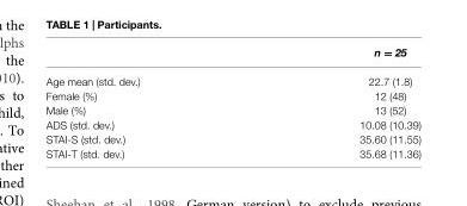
<table><thead><tr><td></td><td>n = 25</td></tr></thead><tbody><tr><td>Age mean (std. dev.)</td><td>22.7 (1.8)</td></tr><tr><td>Female (%)</td><td>12 (48)</td></tr><tr><td>Male (%)</td><td>13 (52)</td></tr><tr><td>ADS (std. dev.)</td><td>10.08 (10.39)</td></tr><tr><td>STAI-S (std. dev.)</td><td>35.60 (11.55)</td></tr><tr><td>STAI-T (std. dev.)</td><td>35.68 (11.36)</td></tr></tbody></table>